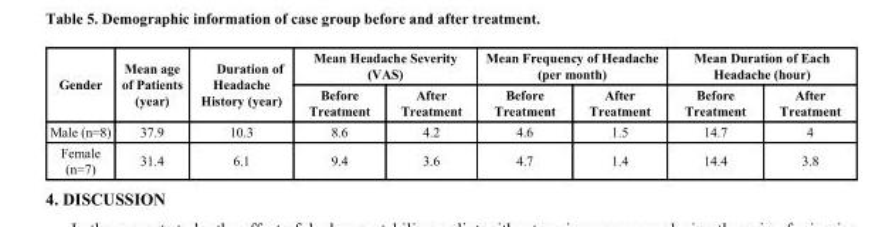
<table><thead><tr><td rowspan="2">Gender</td><td rowspan="2">Mean age of Patients (year)</td><td rowspan="2">Duration of Headache History (year)</td><td colspan="2">Mean Headache Severity (VAS)</td><td colspan="2">Mean Frequency of Headache (per month)</td><td colspan="2">Mean Duration of Each Headache (hour)</td></tr><tr><td>Before Treatment</td><td>After Treatment</td><td>Before Treatment</td><td>After Treatment</td><td>Before Treatment</td><td>After Treatment</td></tr></thead><tbody><tr><td>Male (n=8)</td><td>37.9</td><td>10.3</td><td>8.6</td><td>4.2</td><td>4.6</td><td>1.5</td><td>14.7</td><td>4</td></tr><tr><td>Female (n=7)</td><td>31.4</td><td>6.1</td><td>9.4</td><td>3.6</td><td>4.7</td><td>1.4</td><td>14.4</td><td>3.8</td></tr></tbody></table>